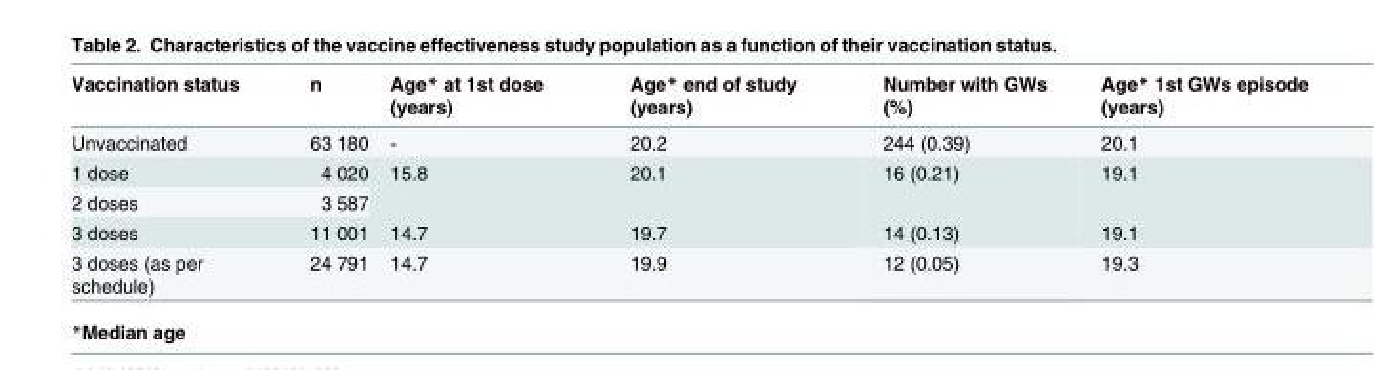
<table><thead><tr><td>Vaccination status</td><td>n</td><td>Age* at 1st dose (years)</td><td>Age* end of study (years)</td><td>Number with GWs (%)</td><td>Age* 1st GWs episode (years)</td></tr></thead><tbody><tr><td>Unvaccinated</td><td>63 180</td><td>-</td><td>20.2</td><td>244 (0.39)</td><td>20.1</td></tr><tr><td>1 dose</td><td>4 020</td><td rowspan="2">15.8</td><td rowspan="2">20.1</td><td rowspan="2">16 (0.21)</td><td rowspan="2">19.1</td></tr><tr><td>2 doses</td><td>3 587</td></tr><tr><td>3 doses</td><td>11 001</td><td>14.7</td><td>19.7</td><td>14 (0.13)</td><td>19.1</td></tr><tr><td>3 doses (as per schedule)</td><td>24 791</td><td>14.7</td><td>19.9</td><td>12 (0.05)</td><td>19.3</td></tr></tbody></table>